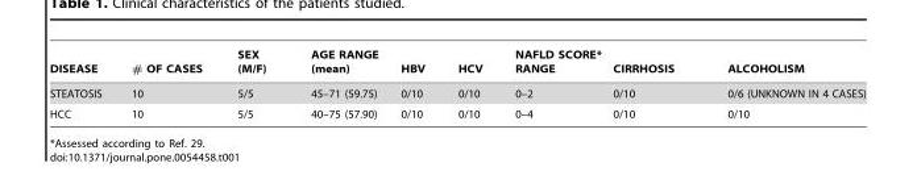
<table><thead><tr><td>DISEASE</td><td># OF CASES</td><td>SEX (M/F)</td><td>AGE RANGE (mean)</td><td>HBV</td><td>HCV</td><td>NAFLD SCORE* RANGE</td><td>CIRRHOSIS</td><td>ALCOHOLISM</td></tr></thead><tbody><tr><td>STEATOSIS</td><td>10</td><td>5/5</td><td>45–71 (59.75)</td><td>0/10</td><td>0/10</td><td>0–2</td><td>0/10</td><td>0/6 (UNKNOWN IN 4 CASES)</td></tr><tr><td>HCC</td><td>10</td><td>5/5</td><td>40–75 (57.90)</td><td>0/10</td><td>0/10</td><td>0–4</td><td>0/10</td><td>0/10</td></tr></tbody></table>